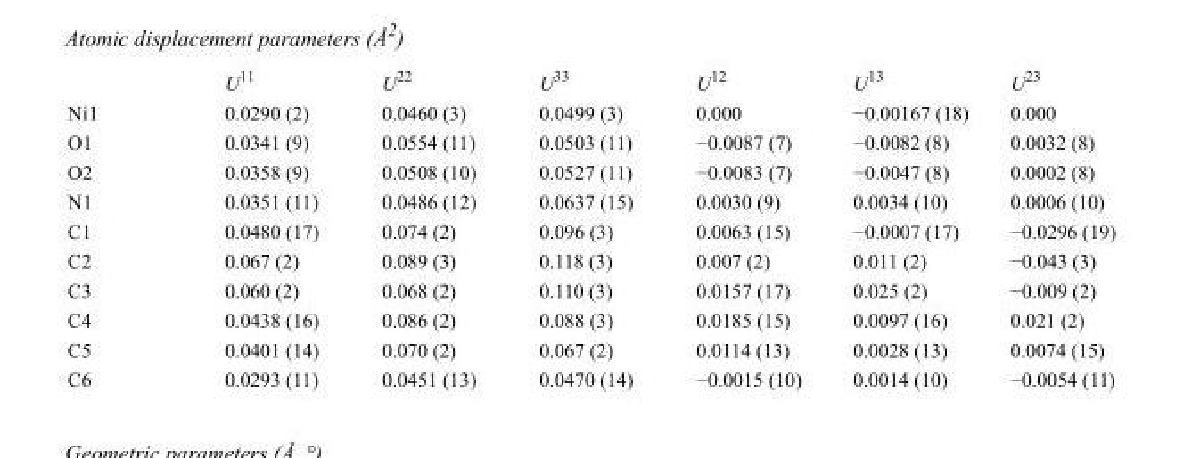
<table><thead><tr><td></td><td>U<sup>11</sup></td><td>U<sup>22</sup></td><td>U<sup>33</sup></td><td>U<sup>12</sup></td><td>U<sup>13</sup></td><td>U<sup>23</sup></td></tr></thead><tbody><tr><td>Ni1</td><td>0.0290 (2)</td><td>0.0460 (3)</td><td>0.0499 (3)</td><td>0.000</td><td>−0.00167 (18)</td><td>0.000</td></tr><tr><td>O1</td><td>0.0341 (9)</td><td>0.0554 (11)</td><td>0.0503 (11)</td><td>−0.0087 (7)</td><td>−0.0082 (8)</td><td>0.0032 (8)</td></tr><tr><td>O2</td><td>0.0358 (9)</td><td>0.0508 (10)</td><td>0.0527 (11)</td><td>−0.0083 (7)</td><td>−0.0047 (8)</td><td>0.0002 (8)</td></tr><tr><td>N1</td><td>0.0351 (11)</td><td>0.0486 (12)</td><td>0.0637 (15)</td><td>0.0030 (9)</td><td>0.0034 (10)</td><td>0.0006 (10)</td></tr><tr><td>C1</td><td>0.0480 (17)</td><td>0.074 (2)</td><td>0.096 (3)</td><td>0.0063 (15)</td><td>−0.0007 (17)</td><td>−0.0296 (19)</td></tr><tr><td>C2</td><td>0.067 (2)</td><td>0.089 (3)</td><td>0.118 (3)</td><td>0.007 (2)</td><td>0.011 (2)</td><td>−0.043 (3)</td></tr><tr><td>C3</td><td>0.060 (2)</td><td>0.068 (2)</td><td>0.110 (3)</td><td>0.0157 (17)</td><td>0.025 (2)</td><td>−0.009 (2)</td></tr><tr><td>C4</td><td>0.0438 (16)</td><td>0.086 (2)</td><td>0.088 (3)</td><td>0.0185 (15)</td><td>0.0097 (16)</td><td>0.021 (2)</td></tr><tr><td>C5</td><td>0.0401 (14)</td><td>0.070 (2)</td><td>0.067 (2)</td><td>0.0114 (13)</td><td>0.0028 (13)</td><td>0.0074 (15)</td></tr><tr><td>C6</td><td>0.0293 (11)</td><td>0.0451 (13)</td><td>0.0470 (14)</td><td>−0.0015 (10)</td><td>0.0014 (10)</td><td>−0.0054 (11)</td></tr></tbody></table>